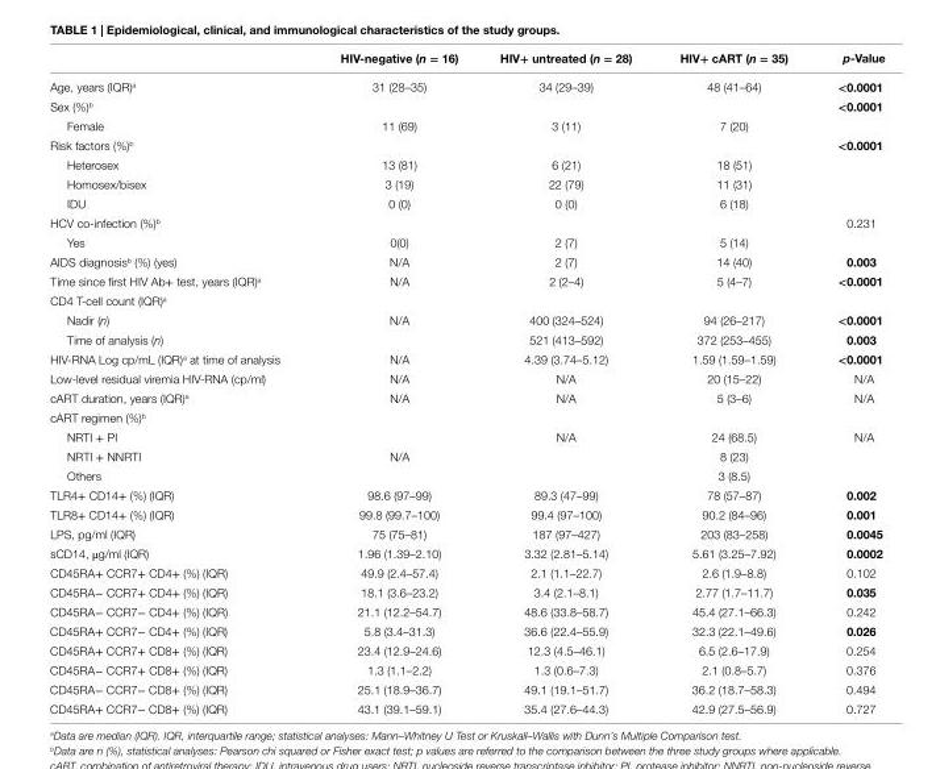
<table><thead><tr><td></td><td>hiV-negative (n = 16)</td><td>hiV+ untreated (n = 28)</td><td>hiV+ carT (n = 35)</td><td>p-Value</td></tr></thead><tbody><tr><td>Age, years (IQR)<sup>a</sup></td><td>31 (28–35)</td><td>34 (29–39)</td><td>48 (41–64)</td><td>&lt;0.0001</td></tr><tr><td>Sex (%)<sup>b</sup></td><td></td><td></td><td></td><td>&lt;0.0001</td></tr><tr><td>Female</td><td>11 (69)</td><td>3 (11)</td><td>7 (20)</td><td></td></tr><tr><td>Risk factors (%)<sup>b</sup></td><td></td><td></td><td></td><td>&lt;0.0001</td></tr><tr><td>Heterosex</td><td>13 (81)</td><td>6 (21)</td><td>18 (51)</td><td></td></tr><tr><td>Homosex/bisex</td><td>3 (19)</td><td>22 (79)</td><td>11 (31)</td><td></td></tr><tr><td>IDU</td><td>0 (0)</td><td>0 (0)</td><td>6 (18)</td><td></td></tr><tr><td>HCV co-infection (%)<sup>b</sup></td><td></td><td></td><td></td><td>0.231</td></tr><tr><td>Yes</td><td>0(0)</td><td>2 (7)</td><td>5 (14)</td><td></td></tr><tr><td>AIDS diagnosis<sup>b</sup> (%) (yes)</td><td>N/A</td><td>2 (7)</td><td>14 (40)</td><td>0.003</td></tr><tr><td>Time since first HIV Ab+ test, years (IQR)<sup>a</sup></td><td>N/A</td><td>2 (2–4)</td><td>5 (4–7)</td><td>&lt;0.0001</td></tr><tr><td colspan="5">CD4 T-cell count (IQR)<sup>a</sup></td></tr><tr><td>Nadir (n)</td><td>N/A</td><td>400 (324–524)</td><td>94 (26–217)</td><td>&lt;0.0001</td></tr><tr><td>Time of analysis (n)</td><td></td><td>521 (413–592)</td><td>372 (253–455)</td><td>0.003</td></tr><tr><td>HIV-RNA Log cp/mL (IQR)<sup>a</sup> at time of analysis</td><td>N/A</td><td>4.39 (3.74–5.12)</td><td>1.59 (1.59–1.59)</td><td>&lt;0.0001</td></tr><tr><td>Low-level residual viremia HIV-RNA (cp/ml)</td><td>N/A</td><td>N/A</td><td>20 (15–22)</td><td>N/A</td></tr><tr><td>cART duration, years (IQR)<sup>a</sup></td><td>N/A</td><td>N/A</td><td>5 (3–6)</td><td>N/A</td></tr><tr><td colspan="5">cART regimen (%)<sup>b</sup></td></tr><tr><td>NRTI + PI</td><td></td><td>N/A</td><td>24 (68.5)</td><td>N/A</td></tr><tr><td>NRTI + NNRTI</td><td>N/A</td><td></td><td>8 (23)</td><td></td></tr><tr><td>Others</td><td></td><td></td><td>3 (8.5)</td><td></td></tr><tr><td>TLR4+ CD14+ (%) (IQR)</td><td>98.6 (97–99)</td><td>89.3 (47–99)</td><td>78 (57–87)</td><td>0.002</td></tr><tr><td>TLR8+ CD14+ (%) (IQR)</td><td>99.8 (99.7–100)</td><td>99.4 (97–100)</td><td>90.2 (84–96)</td><td>0.001</td></tr><tr><td>LPS, pg/ml (IQR)</td><td>75 (75–81)</td><td>187 (97–427)</td><td>203 (83–258)</td><td>0.0045</td></tr><tr><td>sCD14, μg/ml (IQR)</td><td>1.96 (1.39–2.10)</td><td>3.32 (2.81–5.14)</td><td>5.61 (3.25–7.92)</td><td>0.0002</td></tr><tr><td>CD45RA+ CCR7+ CD4+ (%) (IQR)</td><td>49.9 (2.4–57.4)</td><td>2.1 (1.1–22.7)</td><td>2.6 (1.9–8.8)</td><td>0.102</td></tr><tr><td>CD45RA− CCR7+ CD4+ (%) (IQR)</td><td>18.1 (3.6–23.2)</td><td>3.4 (2.1–8.1)</td><td>2.77 (1.7–11.7)</td><td>0.035</td></tr><tr><td>CD45RA− CCR7− CD4+ (%) (IQR)</td><td>21.1 (12.2–54.7)</td><td>48.6 (33.8–58.7)</td><td>45.4 (27.1–66.3)</td><td>0.242</td></tr><tr><td>CD45RA+ CCR7− CD4+ (%) (IQR)</td><td>5.8 (3.4–31.3)</td><td>36.6 (22.4–55.9)</td><td>32.3 (22.1–49.6)</td><td>0.026</td></tr><tr><td>CD45RA+ CCR7+ CD8+ (%) (IQR)</td><td>23.4 (12.9–24.6)</td><td>12.3 (4.5–46.1)</td><td>6.5 (2.6–17.9)</td><td>0.254</td></tr><tr><td>CD45RA− CCR7+ CD8+ (%) (IQR)</td><td>1.3 (1.1–2.2)</td><td>1.3 (0.6–7.3)</td><td>2.1 (0.8–5.7)</td><td>0.376</td></tr><tr><td>CD45RA− CCR7− CD8+ (%) (IQR)</td><td>25.1 (18.9–36.7)</td><td>49.1 (19.1–51.7)</td><td>36.2 (18.7–58.3)</td><td>0.494</td></tr><tr><td>CD45RA+ CCR7− CD8+ (%) (IQR)</td><td>43.1 (39.1–59.1)</td><td>35.4 (27.6–44.3)</td><td>42.9 (27.5–56.9)</td><td>0.727</td></tr></tbody></table>